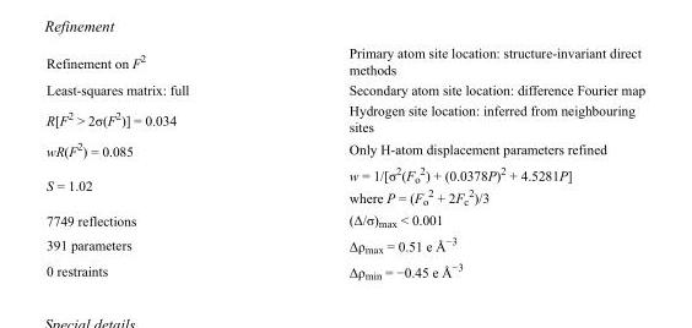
<table><tbody><tr><td>Refinement on F<sup>2</sup></td><td>Primary atom site location: structure-invariant direct methods</td></tr><tr><td>Least-squares matrix: full</td><td>Secondary atom site location: difference Fourier map</td></tr><tr><td>R[F<sup>2</sup> &gt; 2σ(F<sup>2</sup>)] = 0.034</td><td>Hydrogen site location: inferred from neighbouring sites</td></tr><tr><td>wR(F<sup>2</sup>) = 0.085</td><td>Only H-atom displacement parameters refined</td></tr><tr><td>S = 1.02</td><td>w = 1/[σ<sup>2</sup>(F<sub>o</sub> <sup>2</sup>) + (0.0378P)<sup>2</sup> + 4.5281P] where P = (F<sub>o</sub> <sup>2</sup> + 2F<sub>c</sub> <sup>2</sup>)/3</td></tr><tr><td>7749 reflections</td><td>(Δ/σ)<sub>max</sub> &lt; 0.001</td></tr><tr><td>391 parameters</td><td>Δρ<sub>max</sub> = 0.51 e Å<sup>−3</sup></td></tr><tr><td>0 restraints</td><td>Δρ<sub>min</sub> = −0.45 e Å<sup>−3</sup></td></tr></tbody></table>